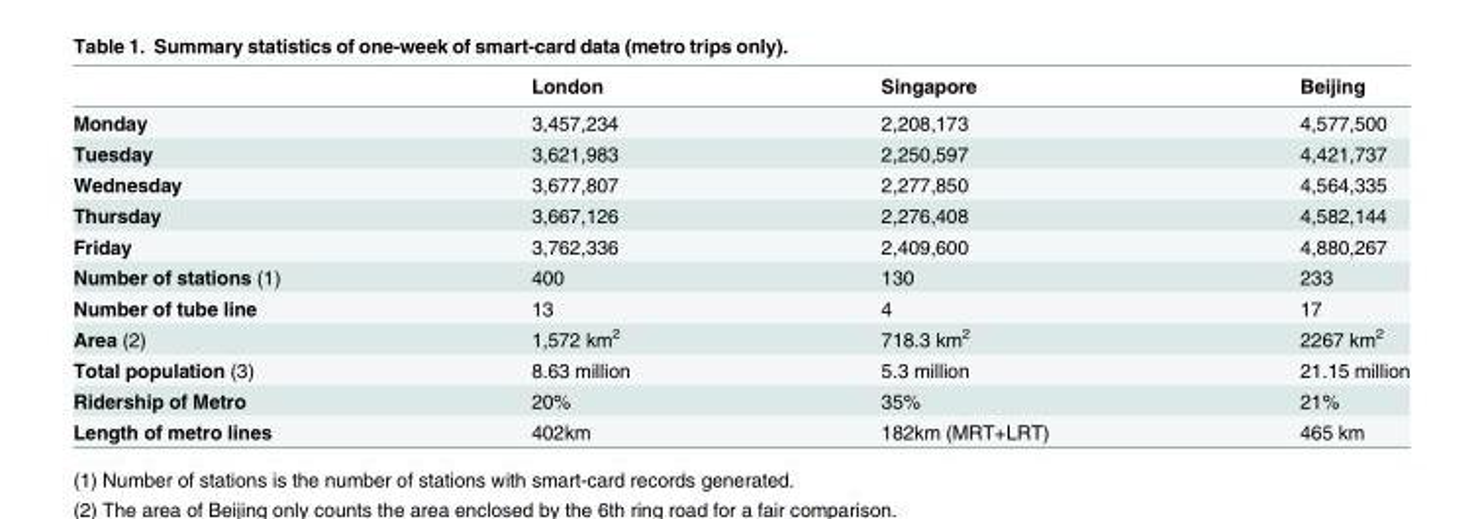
<table><thead><tr><td></td><td>London</td><td>Singapore</td><td>Beijing</td></tr></thead><tbody><tr><td>Monday</td><td>3,457,234</td><td>2,208,173</td><td>4,577,500</td></tr><tr><td>Tuesday</td><td>3,621,983</td><td>2,250,597</td><td>4,421,737</td></tr><tr><td>Wednesday</td><td>3,677,807</td><td>2,277,850</td><td>4,564,335</td></tr><tr><td>Thursday</td><td>3,667,126</td><td>2,276,408</td><td>4,582,144</td></tr><tr><td>Friday</td><td>3,762,336</td><td>2,409,600</td><td>4,880,267</td></tr><tr><td>Number of stations (1)</td><td>400</td><td>130</td><td>233</td></tr><tr><td>Number of tube line</td><td>13</td><td>4</td><td>17</td></tr><tr><td>Area (2)</td><td>1,572 km<sup>2</sup></td><td>718.3 km<sup>2</sup></td><td>2267 km<sup>2</sup></td></tr><tr><td>Total population (3)</td><td>8.63 million</td><td>5.3 million</td><td>21.15 million</td></tr><tr><td>Ridership of Metro</td><td>20%</td><td>35%</td><td>21%</td></tr><tr><td>Length of metro lines</td><td>402km</td><td>182km (MRT+LRT)</td><td>465 km</td></tr></tbody></table>